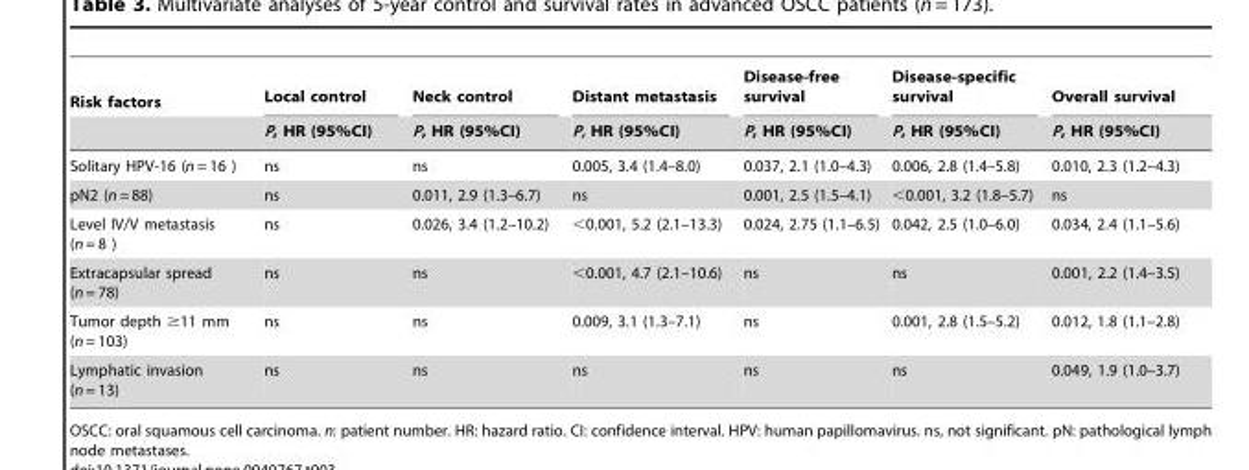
<table><thead><tr><td rowspan="2">Risk factors</td><td rowspan="2">Local control P, HR (95%CI)</td><td rowspan="2">Neck control P, HR (95%CI)</td><td rowspan="2">Distant metastasis P, HR (95%CI)</td><td rowspan="2">Disease-free survival P, HR (95%CI)</td><td rowspan="2">Disease-specific survival P, HR (95%CI)</td><td rowspan="2">Overall survival P, HR (95%CI)</td></tr><tr></tr></thead><tbody><tr><td>Solitary HPV-16 (n = 16 )</td><td>ns</td><td>ns</td><td>0.005, 3.4 (1.4–8.0)</td><td>0.037, 2.1 (1.0–4.3)</td><td>0.006, 2.8 (1.4–5.8)</td><td>0.010, 2.3 (1.2–4.3)</td></tr><tr><td>pN2 (n = 88)</td><td>ns</td><td>0.011, 2.9 (1.3–6.7)</td><td>ns</td><td>0.001, 2.5 (1.5–4.1)</td><td>&lt;0.001, 3.2 (1.8–5.7)</td><td>ns</td></tr><tr><td>Level IV/V metastasis (n = 8 )</td><td>ns</td><td>0.026, 3.4 (1.2–10.2)</td><td>&lt;0.001, 5.2 (2.1–13.3)</td><td>0.024, 2.75 (1.1–6.5)</td><td>0.042, 2.5 (1.0–6.0)</td><td>0.034, 2.4 (1.1–5.6)</td></tr><tr><td>Extracapsular spread (n = 78)</td><td>ns</td><td>ns</td><td>&lt;0.001, 4.7 (2.1–10.6)</td><td>ns</td><td>ns</td><td>0.001, 2.2 (1.4–3.5)</td></tr><tr><td>Tumor depth ≥11 mm (n = 103)</td><td>ns</td><td>ns</td><td>0.009, 3.1 (1.3–7.1)</td><td>ns</td><td>0.001, 2.8 (1.5–5.2)</td><td>0.012, 1.8 (1.1–2.8)</td></tr><tr><td>Lymphatic invasion (n = 13)</td><td>ns</td><td>ns</td><td>ns</td><td>ns</td><td>ns</td><td>0.049, 1.9 (1.0–3.7)</td></tr></tbody></table>